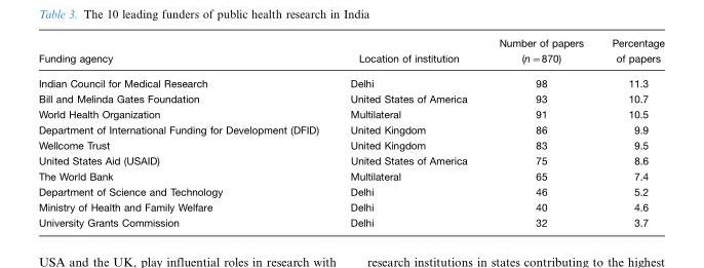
<table><thead><tr><td>Funding agency</td><td>Location of institution</td><td>Number of papers (n=870)</td><td>Percentage of papers</td></tr></thead><tbody><tr><td>Indian Council for Medical Research</td><td>Delhi</td><td>98</td><td>11.3</td></tr><tr><td>Bill and Melinda Gates Foundation</td><td>United States of America</td><td>93</td><td>10.7</td></tr><tr><td>World Health Organization</td><td>Multilateral</td><td>91</td><td>10.5</td></tr><tr><td>Department of International Funding for Development (DFID)</td><td>United Kingdom</td><td>86</td><td>9.9</td></tr><tr><td>Wellcome Trust</td><td>United Kingdom</td><td>83</td><td>9.5</td></tr><tr><td>United States Aid (USAID)</td><td>United States of America</td><td>75</td><td>8.6</td></tr><tr><td>The World Bank</td><td>Multilateral</td><td>65</td><td>7.4</td></tr><tr><td>Department of Science and Technology</td><td>Delhi</td><td>46</td><td>5.2</td></tr><tr><td>Ministry of Health and Family Welfare</td><td>Delhi</td><td>40</td><td>4.6</td></tr><tr><td>University Grants Commission</td><td>Delhi</td><td>32</td><td>3.7</td></tr></tbody></table>